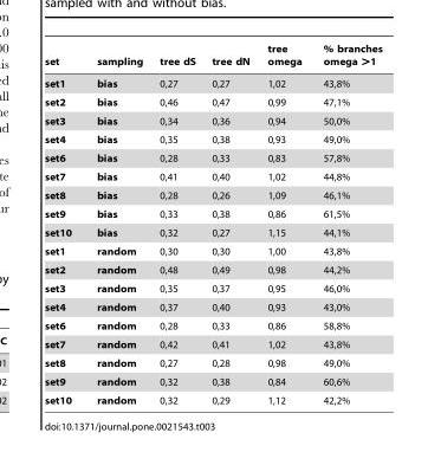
<table><thead><tr><td>set</td><td>sampling</td><td>tree dS</td><td>tree dN</td><td>tree omega</td><td>% branches omega &gt;1</td></tr></thead><tbody><tr><td>set1</td><td>bias</td><td>0,27</td><td>0,27</td><td>1,02</td><td>43,8%</td></tr><tr><td>set2</td><td>bias</td><td>0,46</td><td>0,47</td><td>0,99</td><td>47,1%</td></tr><tr><td>set3</td><td>bias</td><td>0,34</td><td>0,36</td><td>0,94</td><td>50,0%</td></tr><tr><td>set4</td><td>bias</td><td>0,35</td><td>0,38</td><td>0,93</td><td>49,0%</td></tr><tr><td>set6</td><td>bias</td><td>0,28</td><td>0,33</td><td>0,83</td><td>57,8%</td></tr><tr><td>set7</td><td>bias</td><td>0,41</td><td>0,40</td><td>1,02</td><td>44,8%</td></tr><tr><td>set8</td><td>bias</td><td>0,28</td><td>0,26</td><td>1,09</td><td>46,1%</td></tr><tr><td>set9</td><td>bias</td><td>0,33</td><td>0,38</td><td>0,86</td><td>61,5%</td></tr><tr><td>set10</td><td>bias</td><td>0,32</td><td>0,27</td><td>1,15</td><td>44,1%</td></tr><tr><td>set1</td><td>random</td><td>0,30</td><td>0,30</td><td>1,00</td><td>43,8%</td></tr><tr><td>set2</td><td>random</td><td>0,48</td><td>0,49</td><td>0,98</td><td>44,2%</td></tr><tr><td>set3</td><td>random</td><td>0,35</td><td>0,37</td><td>0,95</td><td>46,0%</td></tr><tr><td>set4</td><td>random</td><td>0,37</td><td>0,40</td><td>0,93</td><td>43,0%</td></tr><tr><td>set6</td><td>random</td><td>0,28</td><td>0,33</td><td>0,86</td><td>58,8%</td></tr><tr><td>set7</td><td>random</td><td>0,42</td><td>0,41</td><td>1,02</td><td>43,8%</td></tr><tr><td>set8</td><td>random</td><td>0,27</td><td>0,28</td><td>0,98</td><td>49,0%</td></tr><tr><td>set9</td><td>random</td><td>0,32</td><td>0,38</td><td>0,84</td><td>60,6%</td></tr><tr><td>set10</td><td>random</td><td>0,32</td><td>0,29</td><td>1,12</td><td>42,2%</td></tr></tbody></table>